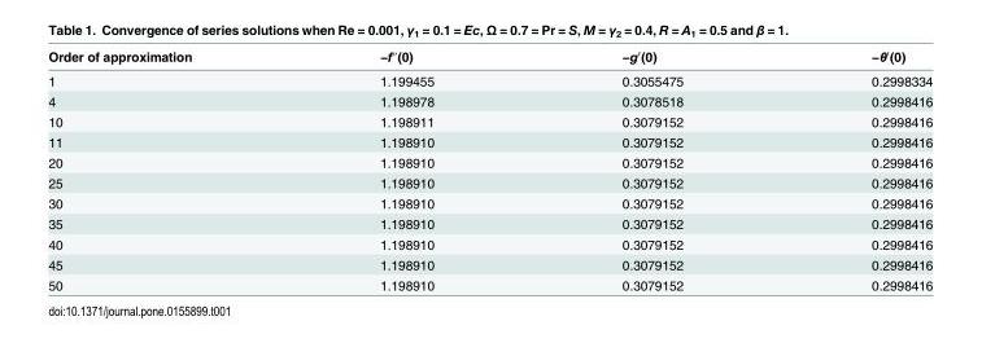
<table><thead><tr><td>Order of approximation</td><td>−f″(0)</td><td>−g′(0)</td><td>−θ′(0)</td></tr></thead><tbody><tr><td>1</td><td>1.199455</td><td>0.3055475</td><td>0.2998334</td></tr><tr><td>4</td><td>1.198978</td><td>0.3078518</td><td>0.2998416</td></tr><tr><td>10</td><td>1.198911</td><td>0.3079152</td><td>0.2998416</td></tr><tr><td>11</td><td>1.198910</td><td>0.3079152</td><td>0.2998416</td></tr><tr><td>20</td><td>1.198910</td><td>0.3079152</td><td>0.2998416</td></tr><tr><td>25</td><td>1.198910</td><td>0.3079152</td><td>0.2998416</td></tr><tr><td>30</td><td>1.198910</td><td>0.3079152</td><td>0.2998416</td></tr><tr><td>35</td><td>1.198910</td><td>0.3079152</td><td>0.2998416</td></tr><tr><td>40</td><td>1.198910</td><td>0.3079152</td><td>0.2998416</td></tr><tr><td>45</td><td>1.198910</td><td>0.3079152</td><td>0.2998416</td></tr><tr><td>50</td><td>1.198910</td><td>0.3079152</td><td>0.2998416</td></tr></tbody></table>